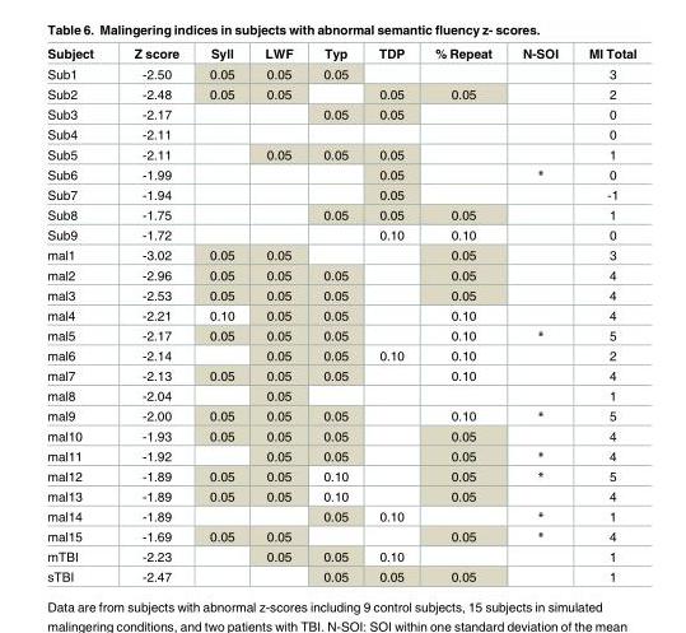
<table><thead><tr><td>Subject</td><td>Z score</td><td>Syll</td><td>LWF</td><td>Typ</td><td>TDP</td><td>% Repeat</td><td>N-SOI</td><td>MI Total</td></tr></thead><tbody><tr><td>Sub1</td><td>-2.50</td><td>0.05</td><td>0.05</td><td>0.05</td><td></td><td></td><td></td><td>3</td></tr><tr><td>Sub2</td><td>-2.48</td><td>0.05</td><td>0.05</td><td></td><td>0.05</td><td>0.05</td><td></td><td>2</td></tr><tr><td>Sub3</td><td>-2.17</td><td></td><td></td><td>0.05</td><td>0.05</td><td></td><td></td><td>0</td></tr><tr><td>Sub4</td><td>-2.11</td><td></td><td></td><td></td><td></td><td></td><td></td><td>0</td></tr><tr><td>Sub5</td><td>-2.11</td><td></td><td>0.05</td><td>0.05</td><td>0.05</td><td></td><td></td><td>1</td></tr><tr><td>Sub6</td><td>-1.99</td><td></td><td></td><td></td><td>0.05</td><td></td><td>*</td><td>0</td></tr><tr><td>Sub7</td><td>-1.94</td><td></td><td></td><td></td><td>0.05</td><td></td><td></td><td>-1</td></tr><tr><td>Sub8</td><td>-1.75</td><td></td><td></td><td>0.05</td><td>0.05</td><td>0.05</td><td></td><td>1</td></tr><tr><td>Sub9</td><td>-1.72</td><td></td><td></td><td></td><td>0.10</td><td>0.10</td><td></td><td>0</td></tr><tr><td>mal1</td><td>-3.02</td><td>0.05</td><td>0.05</td><td></td><td></td><td>0.05</td><td></td><td>3</td></tr><tr><td>mal2</td><td>-2.96</td><td>0.05</td><td>0.05</td><td>0.05</td><td></td><td>0.05</td><td></td><td>4</td></tr><tr><td>mal3</td><td>-2.53</td><td>0.05</td><td>0.05</td><td>0.05</td><td></td><td>0.05</td><td></td><td>4</td></tr><tr><td>mal4</td><td>-2.21</td><td>0.10</td><td>0.05</td><td>0.05</td><td></td><td>0.10</td><td></td><td>4</td></tr><tr><td>mal5</td><td>-2.17</td><td>0.05</td><td>0.05</td><td>0.05</td><td></td><td>0.10</td><td>*</td><td>5</td></tr><tr><td>mal6</td><td>-2.14</td><td></td><td>0.05</td><td>0.05</td><td>0.10</td><td>0.10</td><td></td><td>2</td></tr><tr><td>mal7</td><td>-2.13</td><td>0.05</td><td>0.05</td><td>0.05</td><td></td><td>0.10</td><td></td><td>4</td></tr><tr><td>mal8</td><td>-2.04</td><td></td><td>0.05</td><td></td><td></td><td></td><td></td><td>1</td></tr><tr><td>mal9</td><td>-2.00</td><td>0.05</td><td>0.05</td><td>0.05</td><td></td><td>0.10</td><td>*</td><td>5</td></tr><tr><td>mal10</td><td>-1.93</td><td>0.05</td><td>0.05</td><td>0.05</td><td></td><td>0.05</td><td></td><td>4</td></tr><tr><td>mal11</td><td>-1.92</td><td></td><td>0.05</td><td>0.05</td><td></td><td>0.05</td><td>*</td><td>4</td></tr><tr><td>mal12</td><td>-1.89</td><td>0.05</td><td>0.05</td><td>0.10</td><td></td><td>0.05</td><td>*</td><td>5</td></tr><tr><td>mal13</td><td>-1.89</td><td>0.05</td><td>0.05</td><td>0.10</td><td></td><td>0.05</td><td></td><td>4</td></tr><tr><td>mal14</td><td>-1.89</td><td></td><td></td><td>0.05</td><td>0.10</td><td></td><td>*</td><td>1</td></tr><tr><td>mal15</td><td>-1.69</td><td>0.05</td><td>0.05</td><td></td><td></td><td>0.05</td><td>*</td><td>4</td></tr><tr><td>mTBI</td><td>-2.23</td><td></td><td>0.05</td><td>0.05</td><td>0.10</td><td></td><td></td><td>1</td></tr><tr><td>sTBI</td><td>-2.47</td><td></td><td></td><td>0.05</td><td>0.05</td><td>0.05</td><td></td><td>1</td></tr></tbody></table>